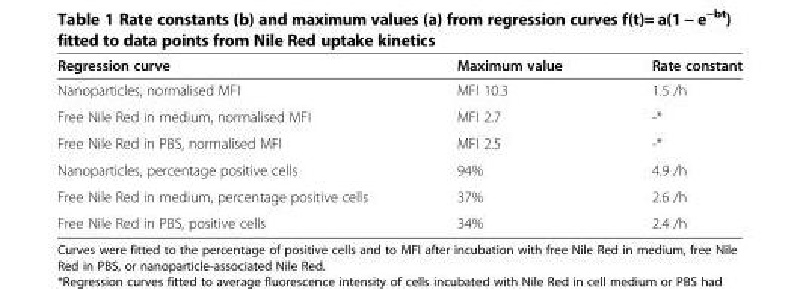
<table><thead><tr><td>Regression curve</td><td>Maximum value</td><td>Rate constant</td></tr></thead><tbody><tr><td>Nanoparticles, normalised MFI</td><td>MFI 10.3</td><td>1.5 /h</td></tr><tr><td>Free Nile Red in medium, normalised MFI</td><td>MFI 2.7</td><td>-*</td></tr><tr><td>Free Nile Red in PBS, normalised MFI</td><td>MFI 2.5</td><td>-*</td></tr><tr><td>Nanoparticles, percentage positive cells</td><td>94%</td><td>4.9 /h</td></tr><tr><td>Free Nile Red in medium, percentage positive cells</td><td>37%</td><td>2.6 /h</td></tr><tr><td>Free Nile Red in PBS, positive cells</td><td>34%</td><td>2.4 /h</td></tr></tbody></table>